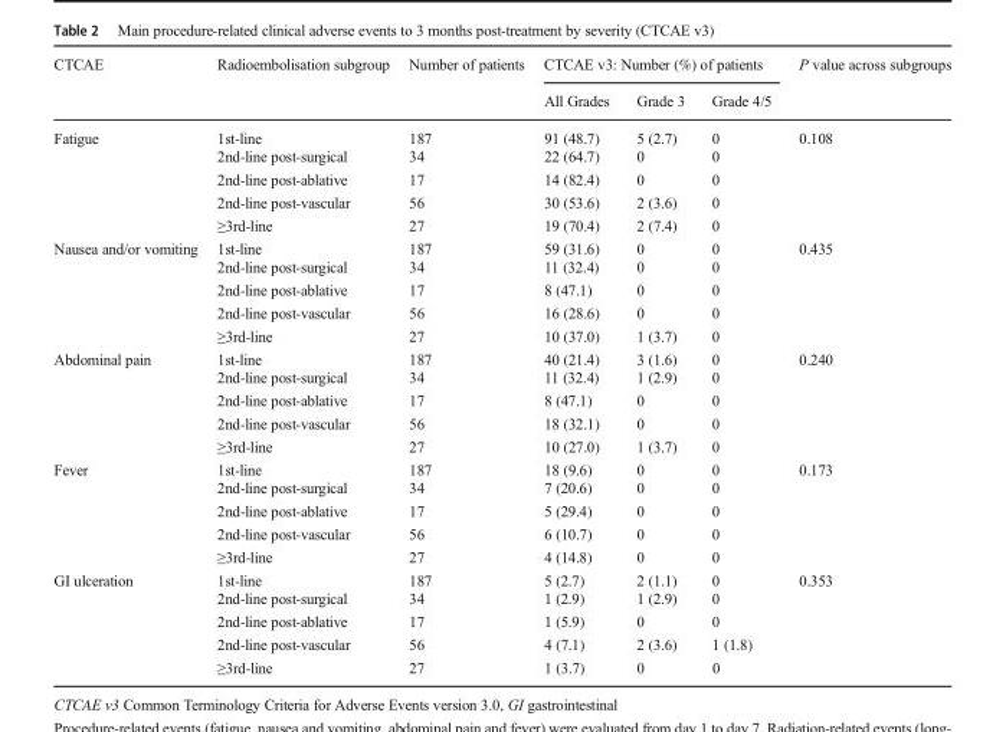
<table><thead><tr><td rowspan="2">CTCAE</td><td rowspan="2">Radioembolisation subgroup</td><td rowspan="2">Number of patients</td><td colspan="3">CTCAE v3: Number (%) of patients</td><td rowspan="2">P value across subgroups</td></tr><tr><td>All Grades</td><td>Grade 3</td><td>Grade 4/5</td></tr></thead><tbody><tr><td rowspan="5">Fatigue</td><td>1st-line</td><td>187</td><td>91 (48.7)</td><td>5 (2.7)</td><td>0</td><td rowspan="5">0.108</td></tr><tr><td>2nd-line post-surgical</td><td>34</td><td>22 (64.7)</td><td>0</td><td>0</td></tr><tr><td>2nd-line post-ablative</td><td>17</td><td>14 (82.4)</td><td>0</td><td>0</td></tr><tr><td>2nd-line post-vascular</td><td>56</td><td>30 (53.6)</td><td>2 (3.6)</td><td>0</td></tr><tr><td>≥3rd-line</td><td>27</td><td>19 (70.4)</td><td>2 (7.4)</td><td>0</td></tr><tr><td rowspan="5">Nausea and/or vomiting</td><td>1st-line</td><td>187</td><td>59 (31.6)</td><td>0</td><td>0</td><td rowspan="5">0.435</td></tr><tr><td>2nd-line post-surgical</td><td>34</td><td>11 (32.4)</td><td>0</td><td>0</td></tr><tr><td>2nd-line post-ablative</td><td>17</td><td>8 (47.1)</td><td>0</td><td>0</td></tr><tr><td>2nd-line post-vascular</td><td>56</td><td>16 (28.6)</td><td>0</td><td>0</td></tr><tr><td>≥3rd-line</td><td>27</td><td>10 (37.0)</td><td>1 (3.7)</td><td>0</td></tr><tr><td rowspan="5">Abdominal pain</td><td>1st-line</td><td>187</td><td>40 (21.4)</td><td>3 (1.6)</td><td>0</td><td rowspan="5">0.240</td></tr><tr><td>2nd-line post-surgical</td><td>34</td><td>11 (32.4)</td><td>1 (2.9)</td><td>0</td></tr><tr><td>2nd-line post-ablative</td><td>17</td><td>8 (47.1)</td><td>0</td><td>0</td></tr><tr><td>2nd-line post-vascular</td><td>56</td><td>18 (32.1)</td><td>0</td><td>0</td></tr><tr><td>≥3rd-line</td><td>27</td><td>10 (27.0)</td><td>1 (3.7)</td><td>0</td></tr><tr><td rowspan="5">Fever</td><td>1st-line</td><td>187</td><td>18 (9.6)</td><td>0</td><td>0</td><td rowspan="5">0.173</td></tr><tr><td>2nd-line post-surgical</td><td>34</td><td>7 (20.6)</td><td>0</td><td>0</td></tr><tr><td>2nd-line post-ablative</td><td>17</td><td>5 (29.4)</td><td>0</td><td>0</td></tr><tr><td>2nd-line post-vascular</td><td>56</td><td>6 (10.7)</td><td>0</td><td>0</td></tr><tr><td>≥3rd-line</td><td>27</td><td>4 (14.8)</td><td>0</td><td>0</td></tr><tr><td rowspan="5">GI ulceration</td><td>1st-line</td><td>187</td><td>5 (2.7)</td><td>2 (1.1)</td><td>0</td><td rowspan="5">0.353</td></tr><tr><td>2nd-line post-surgical</td><td>34</td><td>1 (2.9)</td><td>1 (2.9)</td><td>0</td></tr><tr><td>2nd-line post-ablative</td><td>17</td><td>1 (5.9)</td><td>0</td><td>0</td></tr><tr><td>2nd-line post-vascular</td><td>56</td><td>4 (7.1)</td><td>2 (3.6)</td><td>1 (1.8)</td></tr><tr><td>≥3rd-line</td><td>27</td><td>1 (3.7)</td><td>0</td><td>0</td></tr></tbody></table>